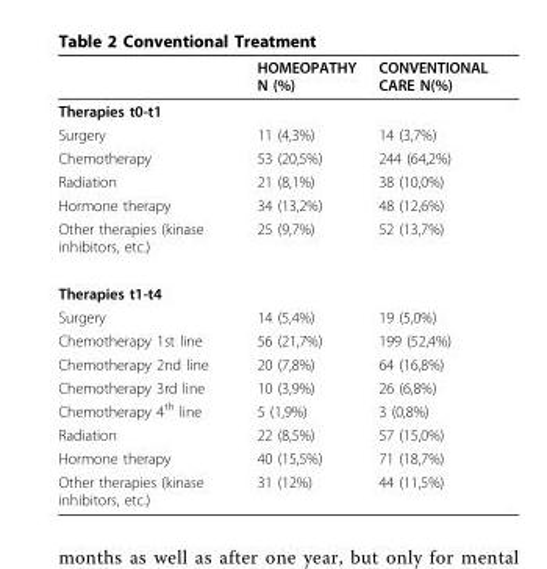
<table><thead><tr><td></td><td>HOMEOPATHY N (%)</td><td>CONVENTIONAL CARE N(%)</td></tr></thead><tbody><tr><td colspan="3">Therapies t0-t1</td></tr><tr><td>Surgery</td><td>11 (4,3%)</td><td>14 (3,7%)</td></tr><tr><td>Chemotherapy</td><td>53 (20,5%)</td><td>244 (64,2%)</td></tr><tr><td>Radiation</td><td>21 (8,1%)</td><td>38 (10,0%)</td></tr><tr><td>Hormone therapy</td><td>34 (13,2%)</td><td>48 (12,6%)</td></tr><tr><td>Other therapies (kinase inhibitors, etc.)</td><td>25 (9,7%)</td><td>52 (13,7%)</td></tr><tr><td colspan="3">Therapies t1-t4</td></tr><tr><td>Surgery</td><td>14 (5,4%)</td><td>19 (5,0%)</td></tr><tr><td>Chemotherapy 1st line</td><td>56 (21,7%)</td><td>199 (52,4%)</td></tr><tr><td>Chemotherapy 2nd line</td><td>20 (7,8%)</td><td>64 (16,8%)</td></tr><tr><td>Chemotherapy 3rd line</td><td>10 (3,9%)</td><td>26 (6,8%)</td></tr><tr><td>Chemotherapy 4<sup>th</sup> line</td><td>5 (1,9%)</td><td>3 (0,8%)</td></tr><tr><td>Radiation</td><td>22 (8,5%)</td><td>57 (15,0%)</td></tr><tr><td>Hormone therapy</td><td>40 (15,5%)</td><td>71 (18,7%)</td></tr><tr><td>Other therapies (kinase inhibitors, etc.)</td><td>31 (12%)</td><td>44 (11,5%)</td></tr></tbody></table>